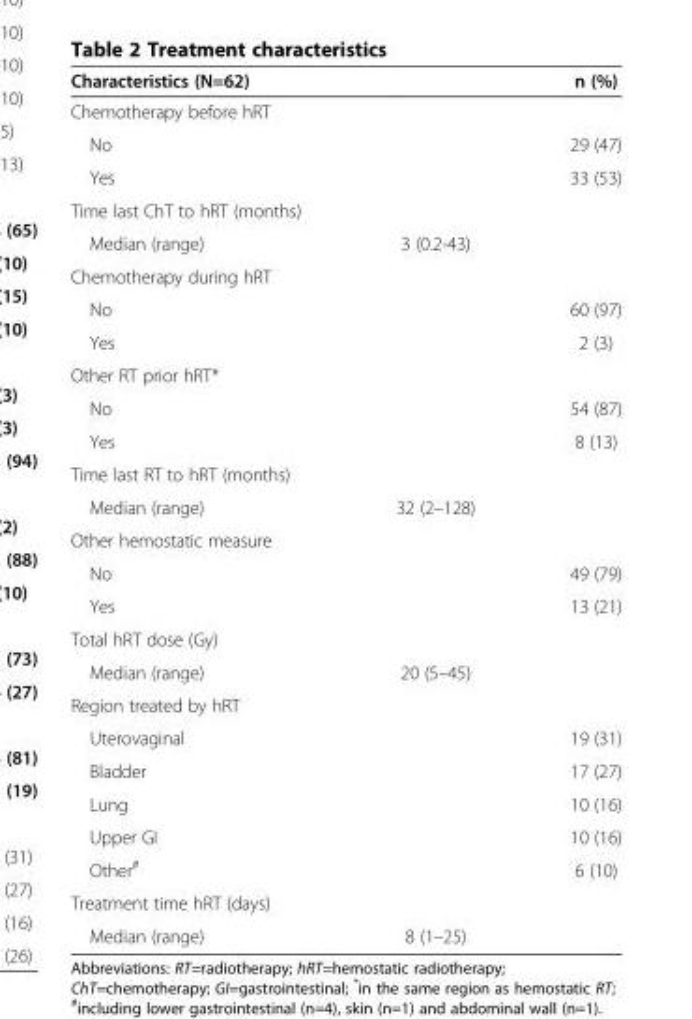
<table><thead><tr><td>Characteristics (N=62)</td><td></td><td>n (%)</td></tr></thead><tbody><tr><td colspan="3">Chemotherapy before hRT</td></tr><tr><td>No</td><td></td><td>29 (47)</td></tr><tr><td>Yes</td><td></td><td>33 (53)</td></tr><tr><td colspan="3">Time last ChT to hRT (months)</td></tr><tr><td>Median (range)</td><td>3 (0.2-43)</td><td></td></tr><tr><td colspan="3">Chemotherapy during hRT</td></tr><tr><td>No</td><td></td><td>60 (97)</td></tr><tr><td>Yes</td><td></td><td>2 (3)</td></tr><tr><td colspan="3">Other RT prior hRT*</td></tr><tr><td>No</td><td></td><td>54 (87)</td></tr><tr><td>Yes</td><td></td><td>8 (13)</td></tr><tr><td colspan="3">Time last RT to hRT (months)</td></tr><tr><td>Median (range)</td><td>32 (2–128)</td><td></td></tr><tr><td colspan="3">Other hemostatic measure</td></tr><tr><td>No</td><td></td><td>49 (79)</td></tr><tr><td>Yes</td><td></td><td>13 (21)</td></tr><tr><td colspan="3">Total hRT dose (Gy)</td></tr><tr><td>Median (range)</td><td>20 (5–45)</td><td></td></tr><tr><td colspan="3">Region treated by hRT</td></tr><tr><td>Uterovaginal</td><td></td><td>19 (31)</td></tr><tr><td>Bladder</td><td></td><td>17 (27)</td></tr><tr><td>Lung</td><td></td><td>10 (16)</td></tr><tr><td>Upper GI</td><td></td><td>10 (16)</td></tr><tr><td>Other<sup>#</sup></td><td></td><td>6 (10)</td></tr><tr><td colspan="3">Treatment time hRT (days)</td></tr><tr><td>Median (range)</td><td>8 (1–25)</td><td></td></tr></tbody></table>